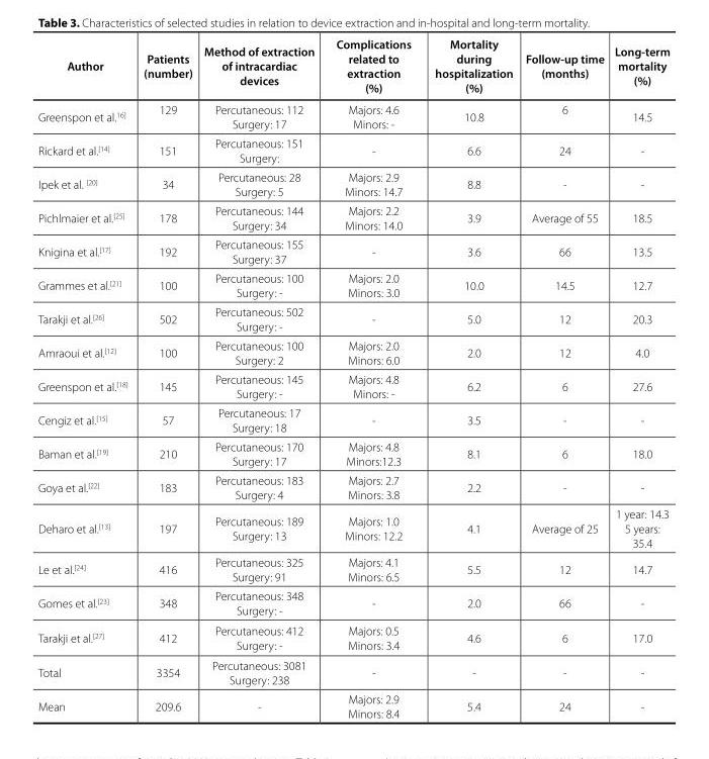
<table><thead><tr><td>Author</td><td>Patients (number)</td><td>Method of extraction of intracardiac devices</td><td>Complications related to extraction (%)</td><td>Mortality during hospitalization (%)</td><td>Follow-up time (months)</td><td>Long-term mortality (%)</td></tr></thead><tbody><tr><td>Greenspon et al.<sup>16]</sup></td><td>129</td><td>Percutaneous: 112 Surgery: 17</td><td>Majors: 4.6 Minors: -</td><td>10.8</td><td>6</td><td>14.5</td></tr><tr><td>Rickard et al.<sup>[14]</sup></td><td>151</td><td>Percutaneous: 151 Surgery:</td><td>-</td><td>6.6</td><td>24</td><td>-</td></tr><tr><td>Ipek et al. <sup>[20]</sup></td><td>34</td><td>Percutaneous: 28 Surgery: 5</td><td>Majors: 2.9 Minors: 14.7</td><td>8.8</td><td>-</td><td>-</td></tr><tr><td>Pichlmaier et al.<sup>[25]</sup></td><td>178</td><td>Percutaneous: 144 Surgery: 34</td><td>Majors: 2.2 Minors: 14.0</td><td>3.9</td><td>Average of 55</td><td>18.5</td></tr><tr><td>Knigina et al.<sup>[17]</sup></td><td>192</td><td>Percutaneous: 155 Surgery: 37</td><td>-</td><td>3.6</td><td>66</td><td>13.5</td></tr><tr><td>Grammes et al.<sup>[21]</sup></td><td>100</td><td>Percutaneous: 100 Surgery: -</td><td>Majors: 2.0 Minors: 3.0</td><td>10.0</td><td>14.5</td><td>12.7</td></tr><tr><td>Tarakji et al.<sup>[26]</sup></td><td>502</td><td>Percutaneous: 502 Surgery: -</td><td>-</td><td>5.0</td><td>12</td><td>20.3</td></tr><tr><td>Amraoui et al.<sup>[12]</sup></td><td>100</td><td>Percutaneous: 100 Surgery: 2</td><td>Majors: 2.0 Minors: 6.0</td><td>2.0</td><td>12</td><td>4.0</td></tr><tr><td>Greenspon et al.<sup>[18]</sup></td><td>145</td><td>Percutaneous: 145 Surgery: -</td><td>Majors: 4.8 Minors: -</td><td>6.2</td><td>6</td><td>27.6</td></tr><tr><td>Cengiz et al.<sup>[15]</sup></td><td>57</td><td>Percutaneous: 17 Surgery: 18</td><td>-</td><td>3.5</td><td>-</td><td>-</td></tr><tr><td>Baman et al.<sup>[19]</sup></td><td>210</td><td>Percutaneous: 170 Surgery: 17</td><td>Majors: 4.8 Minors:12.3</td><td>8.1</td><td>6</td><td>18.0</td></tr><tr><td>Goya et al.<sup>[22]</sup></td><td>183</td><td>Percutaneous: 183 Surgery: 4</td><td>Majors: 2.7 Minors: 3.8</td><td>2.2</td><td>-</td><td>-</td></tr><tr><td>Deharo et al.<sup>[13]</sup></td><td>197</td><td>Percutaneous: 189 Surgery: 13</td><td>Majors: 1.0 Minors: 12.2</td><td>4.1</td><td>Average of 25</td><td>1 year: 14.3 5 years: 35.4</td></tr><tr><td>Le et al.<sup>[24]</sup></td><td>416</td><td>Percutaneous: 325 Surgery: 91</td><td>Majors: 4.1 Minors: 6.5</td><td>5.5</td><td>12</td><td>14.7</td></tr><tr><td>Gomes et al.<sup>[23]</sup></td><td>348</td><td>Percutaneous: 348 Surgery: -</td><td>-</td><td>2.0</td><td>66</td><td>-</td></tr><tr><td>Tarakji et al.<sup>[27]</sup></td><td>412</td><td>Percutaneous: 412 Surgery: -</td><td>Majors: 0.5 Minors: 3.4</td><td>4.6</td><td>6</td><td>17.0</td></tr><tr><td>Total</td><td>3354</td><td>Percutaneous: 3081 Surgery: 238</td><td>-</td><td>-</td><td>-</td><td>-</td></tr><tr><td>Mean</td><td>209.6</td><td>-</td><td>Majors: 2.9 Minors: 8.4</td><td>5.4</td><td>24</td><td>-</td></tr></tbody></table>